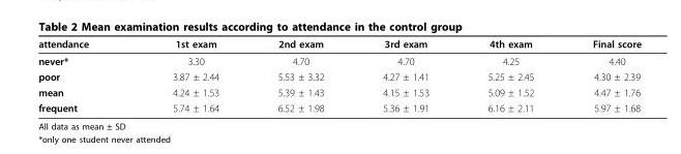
<table><thead><tr><td>attendance</td><td>1st exam</td><td>2nd exam</td><td>3rd exam</td><td>4th exam</td><td>Final score</td></tr></thead><tbody><tr><td>never*</td><td>3.30</td><td>4.70</td><td>4.70</td><td>4.25</td><td>4.40</td></tr><tr><td>poor</td><td>3.87 ± 2.44</td><td>5.53 ± 3.32</td><td>4.27 ± 1.41</td><td>5.25 ± 2.45</td><td>4.30 ± 2.39</td></tr><tr><td>mean</td><td>4.24 ± 1.53</td><td>5.39 ± 1.43</td><td>4.15 ± 1.53</td><td>5.09 ± 1.52</td><td>4.47 ± 1.76</td></tr><tr><td>frequent</td><td>5.74 ± 1.64</td><td>6.52 ± 1.98</td><td>5.36 ± 1.91</td><td>6.16 ± 2.11</td><td>5.97 ± 1.68</td></tr></tbody></table>